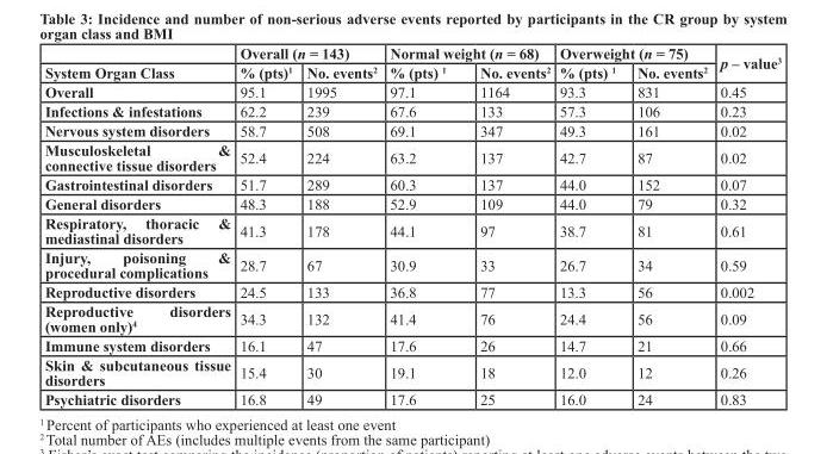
<table><thead><tr><td rowspan="2">System Organ Class</td><td colspan="2">Overall (n = 143)</td><td colspan="2">Normal weight (n = 68)</td><td colspan="2">Overweight (n = 75)</td><td rowspan="2">p – value<sup>3</sup></td></tr><tr><td>% (pts)<sup>1</sup></td><td>No. events<sup>2</sup></td><td>% (pts) <sup>1</sup></td><td>No. events<sup>2</sup></td><td>% (pts) <sup>1</sup></td><td>No. events<sup>2</sup></td></tr></thead><tbody><tr><td>Overall</td><td>95.1</td><td>1995</td><td>97.1</td><td>1164</td><td>93.3</td><td>831</td><td>0.45</td></tr><tr><td>Infections &amp; infestations</td><td>62.2</td><td>239</td><td>67.6</td><td>133</td><td>57.3</td><td>106</td><td>0.23</td></tr><tr><td>Nervous system disorders</td><td>58.7</td><td>508</td><td>69.1</td><td>347</td><td>49.3</td><td>161</td><td>0.02</td></tr><tr><td>Musculoskeletal &amp; connective tissue disorders</td><td>52.4</td><td>224</td><td>63.2</td><td>137</td><td>42.7</td><td>87</td><td>0.02</td></tr><tr><td>Gastrointestinal disorders</td><td>51.7</td><td>289</td><td>60.3</td><td>137</td><td>44.0</td><td>152</td><td>0.07</td></tr><tr><td>General disorders</td><td>48.3</td><td>188</td><td>52.9</td><td>109</td><td>44.0</td><td>79</td><td>0.32</td></tr><tr><td>Respiratory, thoracic &amp; mediastinal disorders</td><td>41.3</td><td>178</td><td>44.1</td><td>97</td><td>38.7</td><td>81</td><td>0.61</td></tr><tr><td>Injury, poisoning &amp; procedural complications</td><td>28.7</td><td>67</td><td>30.9</td><td>33</td><td>26.7</td><td>34</td><td>0.59</td></tr><tr><td>Reproductive disorders</td><td>24.5</td><td>133</td><td>36.8</td><td>77</td><td>13.3</td><td>56</td><td>0.002</td></tr><tr><td>Reproductive disorders (women only)<sup>4</sup></td><td>34.3</td><td>132</td><td>41.4</td><td>76</td><td>24.4</td><td>56</td><td>0.09</td></tr><tr><td>Immune system disorders</td><td>16.1</td><td>47</td><td>17.6</td><td>26</td><td>14.7</td><td>21</td><td>0.66</td></tr><tr><td>Skin &amp; subcutaneous tissue disorders</td><td>15.4</td><td>30</td><td>19.1</td><td>18</td><td>12.0</td><td>12</td><td>0.26</td></tr><tr><td>Psychiatric disorders</td><td>16.8</td><td>49</td><td>17.6</td><td>25</td><td>16.0</td><td>24</td><td>0.83</td></tr></tbody></table>